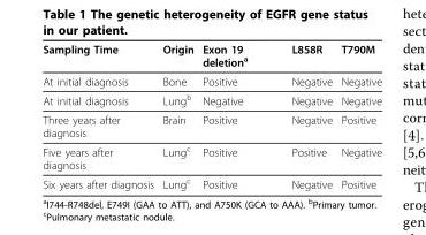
<table><thead><tr><td>Sampling Time</td><td>Origin</td><td>Exon 19 deletion<sup>a</sup></td><td>L858R</td><td>T790M</td></tr></thead><tbody><tr><td>At initial diagnosis</td><td>Bone</td><td>Positive</td><td>Negative</td><td>Negative</td></tr><tr><td>At initial diagnosis</td><td>Lung<sup>b</sup></td><td>Negative</td><td>Negative</td><td>Negative</td></tr><tr><td>Three years after diagnosis</td><td>Brain</td><td>Positive</td><td>Negative</td><td>Positive</td></tr><tr><td>Five years after diagnosis</td><td>Lung<sup>c</sup></td><td>Positive</td><td>Positive</td><td>Negative</td></tr><tr><td>Six years after diagnosis</td><td>Lung<sup>c</sup></td><td>Positive</td><td>Negative</td><td>Positive</td></tr></tbody></table>